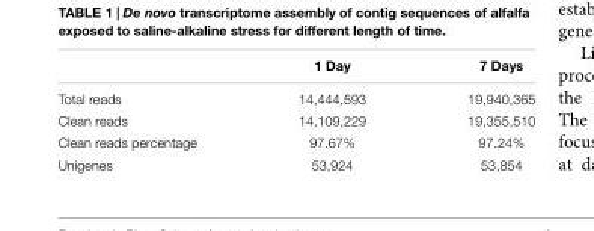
<table><thead><tr><td></td><td>1 Day</td><td>7 Days</td></tr></thead><tbody><tr><td>Total reads</td><td>14,444,593</td><td>19,940,365</td></tr><tr><td>Clean reads</td><td>14,109,229</td><td>19,355,510</td></tr><tr><td>Clean reads percentage</td><td>97.67%</td><td>97.24%</td></tr><tr><td>Unigenes</td><td>53,924</td><td>53,854</td></tr></tbody></table>